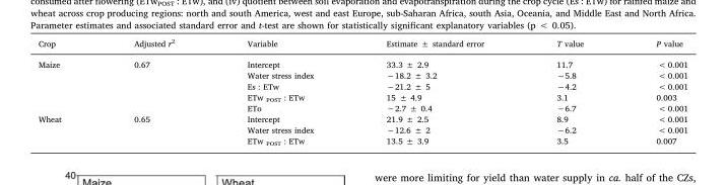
<table><thead><tr><td>Crop</td><td>Adjusted r<sup>2</sup></td><td>Variable</td><td>Estimate ± standard error</td><td>T value</td><td>P value</td></tr></thead><tbody><tr><td rowspan="5">Maize</td><td>0.67</td><td>Intercept</td><td>33.3 ± 2.9</td><td>11.7</td><td>&lt; 0.001</td></tr><tr><td></td><td>Water stress index</td><td>−18.2 ± 3.2</td><td>−5.8</td><td>&lt; 0.001</td></tr><tr><td></td><td>Es : ETw</td><td>−21.2 ± 5</td><td>−4.2</td><td>&lt; 0.001</td></tr><tr><td></td><td>ETw <sub>POST</sub> : ETw</td><td>15 ± 4.9</td><td>3.1</td><td>0.003</td></tr><tr><td></td><td>ETo</td><td>−2.7 ± 0.4</td><td>−6.7</td><td>&lt; 0.001</td></tr><tr><td rowspan="3">Wheat</td><td>0.65</td><td>Intercept</td><td>21.9 ± 2.5</td><td>8.9</td><td>&lt; 0.001</td></tr><tr><td></td><td>Water stress index</td><td>−12.6 ± 2</td><td>−6.2</td><td>&lt; 0.001</td></tr><tr><td></td><td>ETw <sub>POST</sub> : ETw</td><td>13.5 ± 3.9</td><td>3.5</td><td>0.007</td></tr></tbody></table>